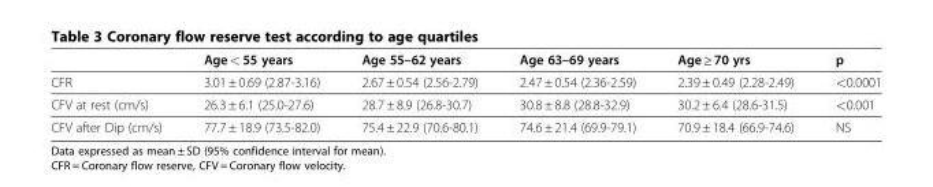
<table><thead><tr><td></td><td>Age &lt; 55 years</td><td>Age 55–62 years</td><td>Age 63–69 years</td><td>Age ≥ 70 yrs</td><td>p</td></tr></thead><tbody><tr><td>CFR</td><td>3.01 ± 0.69 (2.87-3.16)</td><td>2.67 ± 0.54 (2.56-2.79)</td><td>2.47 ± 0.54 (2.36-2.59)</td><td>2.39 ± 0.49 (2.28-2.49)</td><td>&lt;0.0001</td></tr><tr><td>CFV at rest (cm/s)</td><td>26.3 ± 6.1 (25.0-27.6)</td><td>28.7 ± 8.9 (26.8-30.7)</td><td>30.8 ± 8.8 (28.8-32.9)</td><td>30.2 ± 6.4 (28.6-31.5)</td><td>&lt;0.001</td></tr><tr><td>CFV after Dip (cm/s)</td><td>77.7 ± 18.9 (73.5-82.0)</td><td>75.4 ± 22.9 (70.6-80.1)</td><td>74.6 ± 21.4 (69.9-79.1)</td><td>70.9 ± 18.4 (66.9-74.6)</td><td>NS</td></tr></tbody></table>